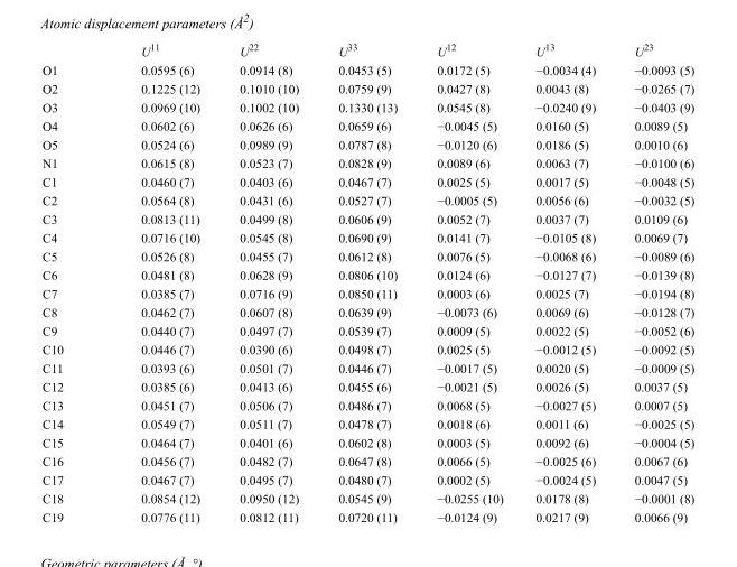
<table><thead><tr><td></td><td>U<sup>11</sup></td><td>U<sup>22</sup></td><td>U<sup>33</sup></td><td>U<sup>12</sup></td><td>U<sup>13</sup></td><td>U<sup>23</sup></td></tr></thead><tbody><tr><td>O1</td><td>0.0595 (6)</td><td>0.0914 (8)</td><td>0.0453 (5)</td><td>0.0172 (5)</td><td>−0.0034 (4)</td><td>−0.0093 (5)</td></tr><tr><td>O2</td><td>0.1225 (12)</td><td>0.1010 (10)</td><td>0.0759 (9)</td><td>0.0427 (8)</td><td>0.0043 (8)</td><td>−0.0265 (7)</td></tr><tr><td>O3</td><td>0.0969 (10)</td><td>0.1002 (10)</td><td>0.1330 (13)</td><td>0.0545 (8)</td><td>−0.0240 (9)</td><td>−0.0403 (9)</td></tr><tr><td>O4</td><td>0.0602 (6)</td><td>0.0626 (6)</td><td>0.0659 (6)</td><td>−0.0045 (5)</td><td>0.0160 (5)</td><td>0.0089 (5)</td></tr><tr><td>O5</td><td>0.0524 (6)</td><td>0.0989 (9)</td><td>0.0787 (8)</td><td>−0.0120 (6)</td><td>0.0186 (5)</td><td>0.0010 (6)</td></tr><tr><td>N1</td><td>0.0615 (8)</td><td>0.0523 (7)</td><td>0.0828 (9)</td><td>0.0089 (6)</td><td>0.0063 (7)</td><td>−0.0100 (6)</td></tr><tr><td>C1</td><td>0.0460 (7)</td><td>0.0403 (6)</td><td>0.0467 (7)</td><td>0.0025 (5)</td><td>0.0017 (5)</td><td>−0.0048 (5)</td></tr><tr><td>C2</td><td>0.0564 (8)</td><td>0.0431 (6)</td><td>0.0527 (7)</td><td>−0.0005 (5)</td><td>0.0056 (6)</td><td>−0.0032 (5)</td></tr><tr><td>C3</td><td>0.0813 (11)</td><td>0.0499 (8)</td><td>0.0606 (9)</td><td>0.0052 (7)</td><td>0.0037 (7)</td><td>0.0109 (6)</td></tr><tr><td>C4</td><td>0.0716 (10)</td><td>0.0545 (8)</td><td>0.0690 (9)</td><td>0.0141 (7)</td><td>−0.0105 (8)</td><td>0.0069 (7)</td></tr><tr><td>C5</td><td>0.0526 (8)</td><td>0.0455 (7)</td><td>0.0612 (8)</td><td>0.0076 (5)</td><td>−0.0068 (6)</td><td>−0.0089 (6)</td></tr><tr><td>C6</td><td>0.0481 (8)</td><td>0.0628 (9)</td><td>0.0806 (10)</td><td>0.0124 (6)</td><td>−0.0127 (7)</td><td>−0.0139 (8)</td></tr><tr><td>C7</td><td>0.0385 (7)</td><td>0.0716 (9)</td><td>0.0850 (11)</td><td>0.0003 (6)</td><td>0.0025 (7)</td><td>−0.0194 (8)</td></tr><tr><td>C8</td><td>0.0462 (7)</td><td>0.0607 (8)</td><td>0.0639 (9)</td><td>−0.0073 (6)</td><td>0.0069 (6)</td><td>−0.0128 (7)</td></tr><tr><td>C9</td><td>0.0440 (7)</td><td>0.0497 (7)</td><td>0.0539 (7)</td><td>0.0009 (5)</td><td>0.0022 (5)</td><td>−0.0052 (6)</td></tr><tr><td>C10</td><td>0.0446 (7)</td><td>0.0390 (6)</td><td>0.0498 (7)</td><td>0.0025 (5)</td><td>−0.0012 (5)</td><td>−0.0092 (5)</td></tr><tr><td>C11</td><td>0.0393 (6)</td><td>0.0501 (7)</td><td>0.0446 (7)</td><td>−0.0017 (5)</td><td>0.0020 (5)</td><td>−0.0009 (5)</td></tr><tr><td>C12</td><td>0.0385 (6)</td><td>0.0413 (6)</td><td>0.0455 (6)</td><td>−0.0021 (5)</td><td>0.0026 (5)</td><td>0.0037 (5)</td></tr><tr><td>C13</td><td>0.0451 (7)</td><td>0.0506 (7)</td><td>0.0486 (7)</td><td>0.0068 (5)</td><td>−0.0027 (5)</td><td>0.0007 (5)</td></tr><tr><td>C14</td><td>0.0549 (7)</td><td>0.0511 (7)</td><td>0.0478 (7)</td><td>0.0018 (6)</td><td>0.0011 (6)</td><td>−0.0025 (5)</td></tr><tr><td>C15</td><td>0.0464 (7)</td><td>0.0401 (6)</td><td>0.0602 (8)</td><td>0.0003 (5)</td><td>0.0092 (6)</td><td>−0.0004 (5)</td></tr><tr><td>C16</td><td>0.0456 (7)</td><td>0.0482 (7)</td><td>0.0647 (8)</td><td>0.0066 (5)</td><td>−0.0025 (6)</td><td>0.0067 (6)</td></tr><tr><td>C17</td><td>0.0467 (7)</td><td>0.0495 (7)</td><td>0.0480 (7)</td><td>0.0002 (5)</td><td>−0.0024 (5)</td><td>0.0047 (5)</td></tr><tr><td>C18</td><td>0.0854 (12)</td><td>0.0950 (12)</td><td>0.0545 (9)</td><td>−0.0255 (10)</td><td>0.0178 (8)</td><td>−0.0001 (8)</td></tr><tr><td>C19</td><td>0.0776 (11)</td><td>0.0812 (11)</td><td>0.0720 (11)</td><td>−0.0124 (9)</td><td>0.0217 (9)</td><td>0.0066 (9)</td></tr></tbody></table>